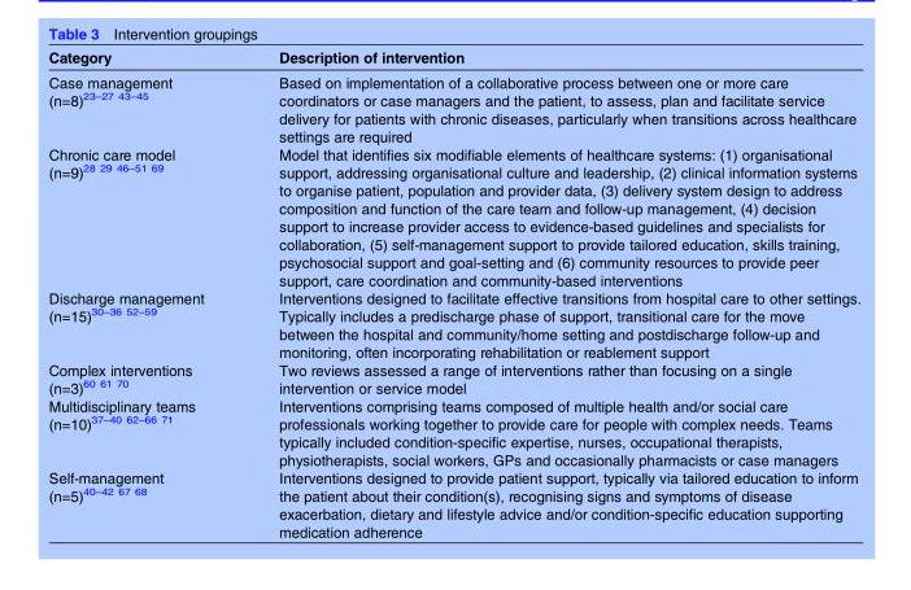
<table><thead><tr><td>Category</td><td>Description of intervention</td></tr></thead><tbody><tr><td>Case management (n=8)<sup>23–27 43–45</sup></td><td>Based on implementation of a collaborative process between one or more care coordinators or case managers and the patient, to assess, plan and facilitate service delivery for patients with chronic diseases, particularly when transitions across healthcare settings are required</td></tr><tr><td>Chronic care model (n=9)<sup>28 29 46–51 69</sup></td><td>Model that identifies six modifiable elements of healthcare systems: (1) organisational support, addressing organisational culture and leadership, (2) clinical information systems to organise patient, population and provider data, (3) delivery system design to address composition and function of the care team and follow-up management, (4) decision support to increase provider access to evidence-based guidelines and specialists for collaboration, (5) self-management support to provide tailored education, skills training, psychosocial support and goal-setting and (6) community resources to provide peer support, care coordination and community-based interventions</td></tr><tr><td>Discharge management (n=15)<sup>30–36 52–59</sup></td><td>Interventions designed to facilitate effective transitions from hospital care to other settings. Typically includes a predischarge phase of support, transitional care for the move between the hospital and community/home setting and postdischarge follow-up and monitoring, often incorporating rehabilitation or reablement support</td></tr><tr><td>Complex interventions (n=3)<sup>60 61 70</sup></td><td>Two reviews assessed a range of interventions rather than focusing on a single intervention or service model</td></tr><tr><td>Multidisciplinary teams (n=10)<sup>37–40 62–66 71</sup></td><td>Interventions comprising teams composed of multiple health and/or social care professionals working together to provide care for people with complex needs. Teams typically included condition-specific expertise, nurses, occupational therapists, physiotherapists, social workers, GPs and occasionally pharmacists or case managers</td></tr><tr><td>Self-management (n=5)<sup>40–42 67 68</sup></td><td>Interventions designed to provide patient support, typically via tailored education to inform the patient about their condition(s), recognising signs and symptoms of disease exacerbation, dietary and lifestyle advice and/or condition-specific education supporting medication adherence</td></tr></tbody></table>